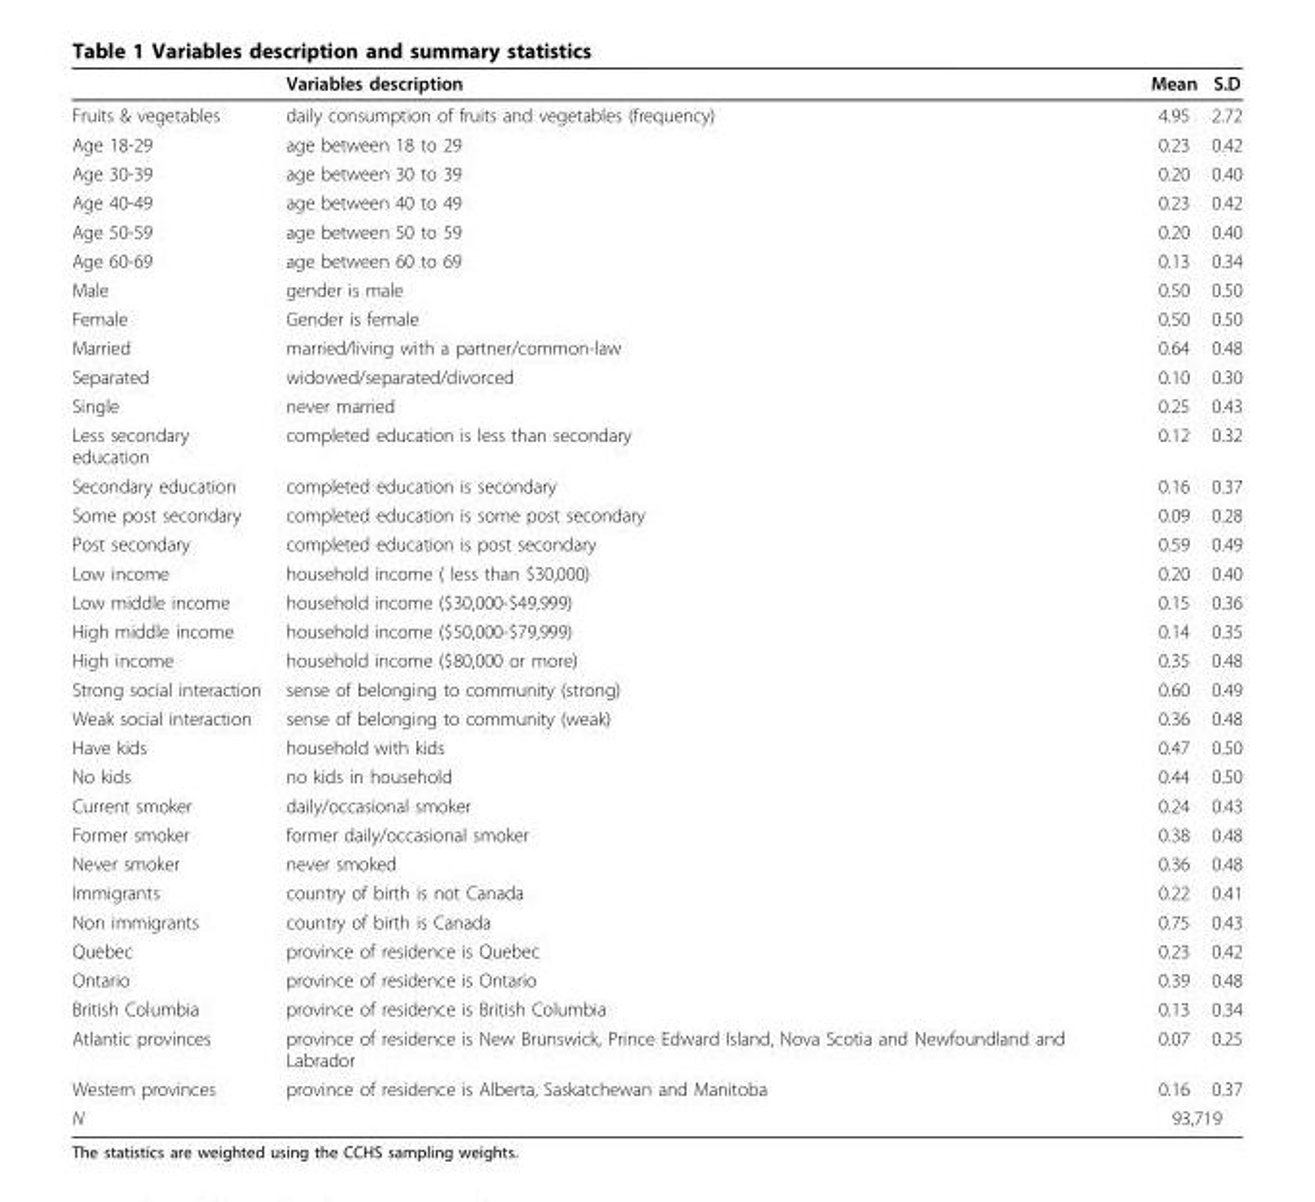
<table><thead><tr><td></td><td>Variables description</td><td>Mean</td><td>S.D</td></tr></thead><tbody><tr><td>Fruits &amp; vegetables</td><td>daily consumption of fruits and vegetables (frequency)</td><td>4.95</td><td>2.72</td></tr><tr><td>Age 18-29</td><td>age between 18 to 29</td><td>0.23</td><td>0.42</td></tr><tr><td>Age 30-39</td><td>age between 30 to 39</td><td>0.20</td><td>0.40</td></tr><tr><td>Age 40-49</td><td>age between 40 to 49</td><td>0.23</td><td>0.42</td></tr><tr><td>Age 50-59</td><td>age between 50 to 59</td><td>0.20</td><td>0.40</td></tr><tr><td>Age 60-69</td><td>age between 60 to 69</td><td>0.13</td><td>0.34</td></tr><tr><td>Male</td><td>gender is male</td><td>0.50</td><td>0.50</td></tr><tr><td>Female</td><td>Gender is female</td><td>0.50</td><td>0.50</td></tr><tr><td>Married</td><td>married/living with a partner/common-law</td><td>0.64</td><td>0.48</td></tr><tr><td>Separated</td><td>widowed/separated/divorced</td><td>0.10</td><td>0.30</td></tr><tr><td>Single</td><td>never married</td><td>0.25</td><td>0.43</td></tr><tr><td>Less secondary education</td><td>completed education is less than secondary</td><td>0.12</td><td>0.32</td></tr><tr><td>Secondary education</td><td>completed education is secondary</td><td>0.16</td><td>0.37</td></tr><tr><td>Some post secondary</td><td>completed education is some post secondary</td><td>0.09</td><td>0.28</td></tr><tr><td>Post secondary</td><td>completed education is post secondary</td><td>0.59</td><td>0.49</td></tr><tr><td>Low income</td><td>household income ( less than $30,000)</td><td>0.20</td><td>0.40</td></tr><tr><td>Low middle income</td><td>household income ($30,000-$49,999)</td><td>0.15</td><td>0.36</td></tr><tr><td>High middle income</td><td>household income ($50,000-$79,999)</td><td>0.14</td><td>0.35</td></tr><tr><td>High income</td><td>household income ($80,000 or more)</td><td>0.35</td><td>0.48</td></tr><tr><td>Strong social interaction</td><td>sense of belonging to community (strong)</td><td>0.60</td><td>0.49</td></tr><tr><td>Weak social interaction</td><td>sense of belonging to community (weak)</td><td>0.36</td><td>0.48</td></tr><tr><td>Have kids</td><td>household with kids</td><td>0.47</td><td>0.50</td></tr><tr><td>No kids</td><td>no kids in household</td><td>0.44</td><td>0.50</td></tr><tr><td>Current smoker</td><td>daily/occasional smoker</td><td>0.24</td><td>0.43</td></tr><tr><td>Former smoker</td><td>former daily/occasional smoker</td><td>0.38</td><td>0.48</td></tr><tr><td>Never smoker</td><td>never smoked</td><td>0.36</td><td>0.48</td></tr><tr><td>Immigrants</td><td>country of birth is not Canada</td><td>0.22</td><td>0.41</td></tr><tr><td>Non immigrants</td><td>country of birth is Canada</td><td>0.75</td><td>0.43</td></tr><tr><td>Quebec</td><td>province of residence is Quebec</td><td>0.23</td><td>0.42</td></tr><tr><td>Ontario</td><td>province of residence is Ontario</td><td>0.39</td><td>0.48</td></tr><tr><td>British Columbia</td><td>province of residence is British Columbia</td><td>0.13</td><td>0.34</td></tr><tr><td>Atlantic provinces</td><td>province of residence is New Brunswick, Prince Edward Island, Nova Scotia and Newfoundland and Labrador</td><td>0.07</td><td>0.25</td></tr><tr><td>Western provinces</td><td>province of residence is Alberta, Saskatchewan and Manitoba</td><td>0.16</td><td>0.37</td></tr><tr><td>N</td><td></td><td colspan="2">93,719</td></tr></tbody></table>